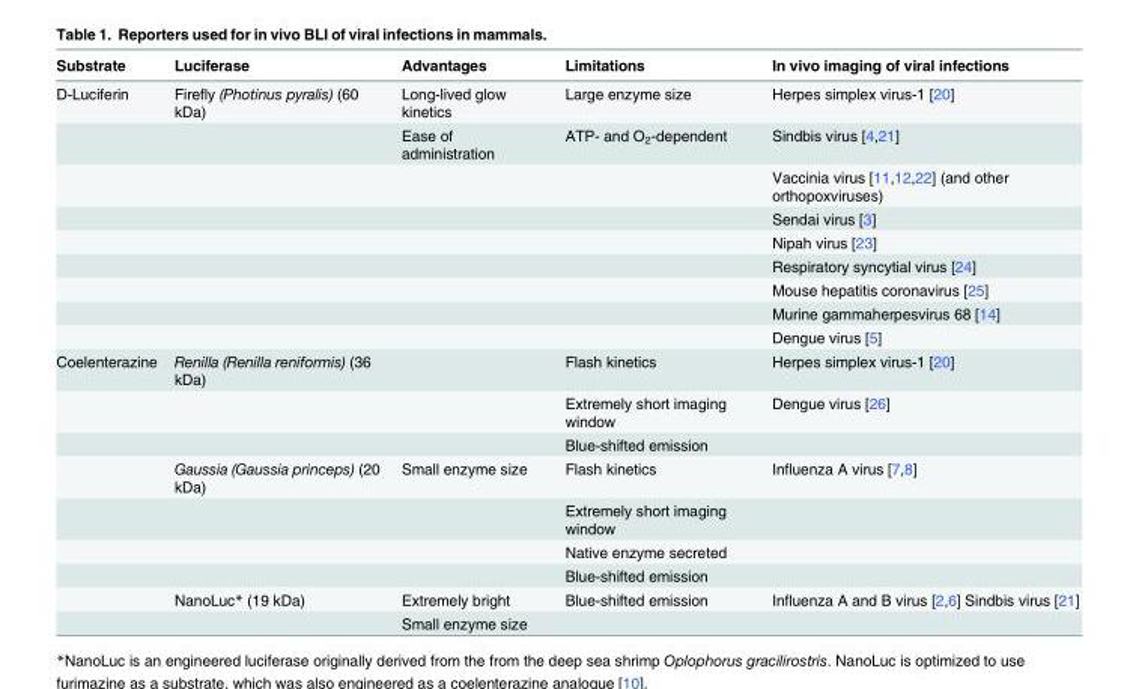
<table><thead><tr><td>Substrate</td><td>Luciferase</td><td>Advantages</td><td>Limitations</td><td>In vivo imaging of viral infections</td></tr></thead><tbody><tr><td rowspan="9">D-Luciferin</td><td>Firefly (Photinus pyralis) (60 kDa)</td><td>Long-lived glow kinetics</td><td>Large enzyme size</td><td>Herpes simplex virus-1 [20]</td></tr><tr><td></td><td>Ease of administration</td><td>ATP- and O<sub>2</sub>-dependent</td><td>Sindbis virus [4,21]</td></tr><tr><td></td><td></td><td></td><td>Vaccinia virus [11,12,22] (and other orthopoxviruses)</td></tr><tr><td></td><td></td><td></td><td>Sendai virus [3]</td></tr><tr><td></td><td></td><td></td><td>Nipah virus [23]</td></tr><tr><td></td><td></td><td></td><td>Respiratory syncytial virus [24]</td></tr><tr><td></td><td></td><td></td><td>Mouse hepatitis coronavirus [25]</td></tr><tr><td></td><td></td><td></td><td>Murine gammaherpesvirus 68 [14]</td></tr><tr><td></td><td></td><td></td><td>Dengue virus [5]</td></tr><tr><td rowspan="9">Coelenterazine</td><td>Renilla (Renilla reniformis) (36 kDa)</td><td></td><td>Flash kinetics</td><td>Herpes simplex virus-1 [20]</td></tr><tr><td></td><td></td><td>Extremely short imaging window</td><td>Dengue virus [26]</td></tr><tr><td></td><td></td><td>Blue-shifted emission</td><td></td></tr><tr><td>Gaussia (Gaussia princeps) (20 kDa)</td><td>Small enzyme size</td><td>Flash kinetics</td><td>Influenza A virus [7,8]</td></tr><tr><td></td><td></td><td>Extremely short imaging window</td><td></td></tr><tr><td></td><td></td><td>Native enzyme secreted</td><td></td></tr><tr><td></td><td></td><td>Blue-shifted emission</td><td></td></tr><tr><td>NanoLuc* (19 kDa)</td><td>Extremely bright</td><td>Blue-shifted emission</td><td>Influenza A and B virus [2,6] Sindbis virus [21]</td></tr><tr><td></td><td>Small enzyme size</td><td></td><td></td></tr></tbody></table>